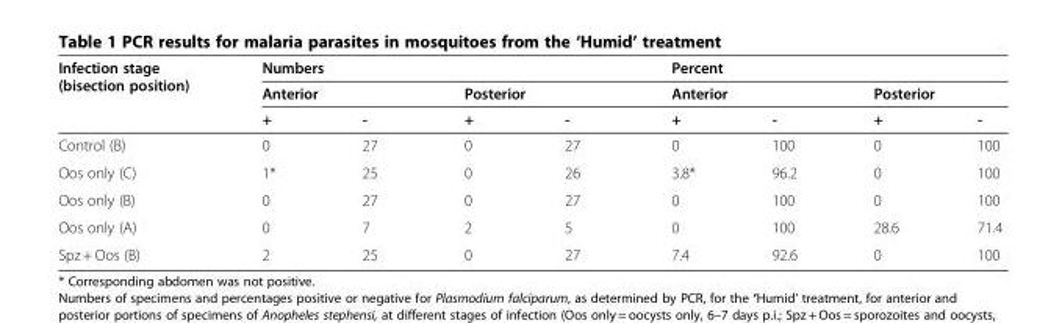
<table><thead><tr><td rowspan="3">Infection stage (bisection position)</td><td colspan="4">Numbers</td><td colspan="4">Percent</td></tr><tr><td colspan="2">Anterior</td><td colspan="2">Posterior</td><td colspan="2">Anterior</td><td colspan="2">Posterior</td></tr><tr><td>+</td><td>-</td><td>+</td><td>-</td><td>+</td><td>-</td><td>+</td><td>-</td></tr></thead><tbody><tr><td>Control (B)</td><td>0</td><td>27</td><td>0</td><td>27</td><td>0</td><td>100</td><td>0</td><td>100</td></tr><tr><td>Oos only (C)</td><td>1*</td><td>25</td><td>0</td><td>26</td><td>3.8*</td><td>96.2</td><td>0</td><td>100</td></tr><tr><td>Oos only (B)</td><td>0</td><td>27</td><td>0</td><td>27</td><td>0</td><td>100</td><td>0</td><td>100</td></tr><tr><td>Oos only (A)</td><td>0</td><td>7</td><td>2</td><td>5</td><td>0</td><td>100</td><td>28.6</td><td>71.4</td></tr><tr><td>Spz + Oos (B)</td><td>2</td><td>25</td><td>0</td><td>27</td><td>7.4</td><td>92.6</td><td>0</td><td>100</td></tr></tbody></table>